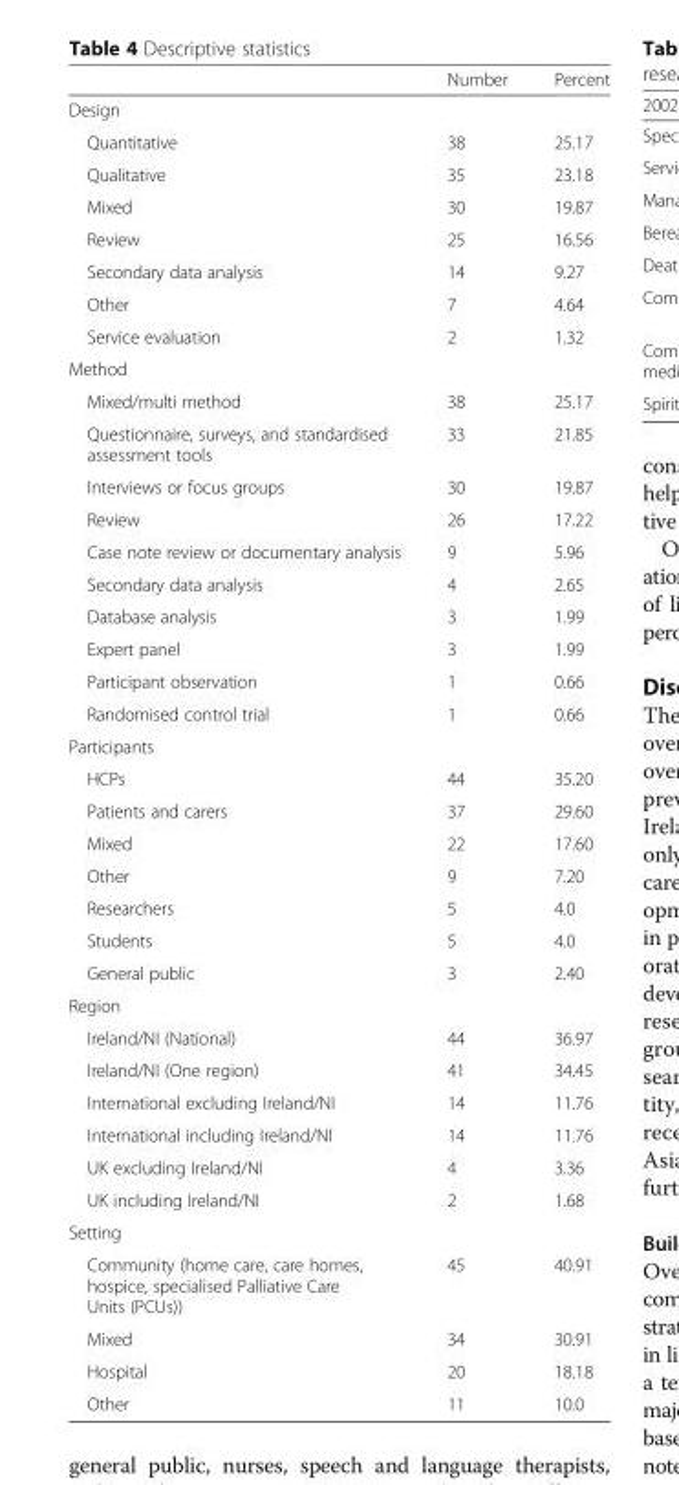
<table><thead><tr><td></td><td>Number</td><td>Percent</td></tr></thead><tbody><tr><td colspan="3">Design</td></tr><tr><td>Quantitative</td><td>38</td><td>25.17</td></tr><tr><td>Qualitative</td><td>35</td><td>23.18</td></tr><tr><td>Mixed</td><td>30</td><td>19.87</td></tr><tr><td>Review</td><td>25</td><td>16.56</td></tr><tr><td>Secondary data analysis</td><td>14</td><td>9.27</td></tr><tr><td>Other</td><td>7</td><td>4.64</td></tr><tr><td>Service evaluation</td><td>2</td><td>1.32</td></tr><tr><td colspan="3">Method</td></tr><tr><td>Mixed/multi method</td><td>38</td><td>25.17</td></tr><tr><td>Questionnaire, surveys, and standardised assessment tools</td><td>33</td><td>21.85</td></tr><tr><td>Interviews or focus groups</td><td>30</td><td>19.87</td></tr><tr><td>Review</td><td>26</td><td>17.22</td></tr><tr><td>Case note review or documentary analysis</td><td>9</td><td>5.96</td></tr><tr><td>Secondary data analysis</td><td>4</td><td>2.65</td></tr><tr><td>Database analysis</td><td>3</td><td>1.99</td></tr><tr><td>Expert panel</td><td>3</td><td>1.99</td></tr><tr><td>Participant observation</td><td>1</td><td>0.66</td></tr><tr><td>Randomised control trial</td><td>1</td><td>0.66</td></tr><tr><td colspan="3">Participants</td></tr><tr><td>HCPs</td><td>44</td><td>35.20</td></tr><tr><td>Patients and carers</td><td>37</td><td>29.60</td></tr><tr><td>Mixed</td><td>22</td><td>17.60</td></tr><tr><td>Other</td><td>9</td><td>7.20</td></tr><tr><td>Researchers</td><td>5</td><td>4.0</td></tr><tr><td>Students</td><td>5</td><td>4.0</td></tr><tr><td>General public</td><td>3</td><td>2.40</td></tr><tr><td colspan="3">Region</td></tr><tr><td>Ireland/NI (National)</td><td>44</td><td>36.97</td></tr><tr><td>Ireland/NI (One region)</td><td>41</td><td>34.45</td></tr><tr><td>International excluding Ireland/NI</td><td>14</td><td>11.76</td></tr><tr><td>International including Ireland/NI</td><td>14</td><td>11.76</td></tr><tr><td>UK excluding Ireland/NI</td><td>4</td><td>3.36</td></tr><tr><td>UK including Ireland/NI</td><td>2</td><td>1.68</td></tr><tr><td colspan="3">Setting</td></tr><tr><td>Community (home care, care homes, hospice, specialised Palliative Care Units (PCUs))</td><td>45</td><td>40.91</td></tr><tr><td>Mixed</td><td>34</td><td>30.91</td></tr><tr><td>Hospital</td><td>20</td><td>18.18</td></tr><tr><td>Other</td><td>11</td><td>10.0</td></tr></tbody></table>